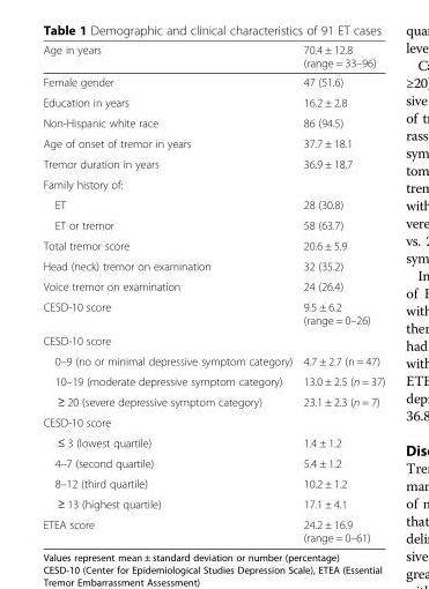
<table><thead><tr><td>Age in years</td><td>70.4 ± 12.8 (range = 33–96)</td></tr></thead><tbody><tr><td>Female gender</td><td>47 (51.6)</td></tr><tr><td>Education in years</td><td>16.2 ± 2.8</td></tr><tr><td>Non-Hispanic white race</td><td>86 (94.5)</td></tr><tr><td>Age of onset of tremor in years</td><td>37.7 ± 18.1</td></tr><tr><td>Tremor duration in years</td><td>36.9 ± 18.7</td></tr><tr><td colspan="2">Family history of:</td></tr><tr><td>ET</td><td>28 (30.8)</td></tr><tr><td>ET or tremor</td><td>58 (63.7)</td></tr><tr><td>Total tremor score</td><td>20.6 ± 5.9</td></tr><tr><td>Head (neck) tremor on examination</td><td>32 (35.2)</td></tr><tr><td>Voice tremor on examination</td><td>24 (26.4)</td></tr><tr><td>CESD-10 score</td><td>9.5 ± 6.2 (range = 0–26)</td></tr><tr><td colspan="2">CESD-10 score</td></tr><tr><td>0–9 (no or minimal depressive symptom category)</td><td>4.7 ± 2.7 (n = 47)</td></tr><tr><td>10–19 (moderate depressive symptom category)</td><td>13.0 ± 2.5 (n = 37)</td></tr><tr><td>≥ 20 (severe depressive symptom category)</td><td>23.1 ± 2.3 (n = 7)</td></tr><tr><td colspan="2">CESD-10 score</td></tr><tr><td>≤ 3 (lowest quartile)</td><td>1.4 ± 1.2</td></tr><tr><td>4–7 (second quartile)</td><td>5.4 ± 1.2</td></tr><tr><td>8–12 (third quartile)</td><td>10.2 ± 1.2</td></tr><tr><td>≥ 13 (highest quartile)</td><td>17.1 ± 4.1</td></tr><tr><td>ETEA score</td><td>24.2 ± 16.9 (range = 0–61)</td></tr></tbody></table>